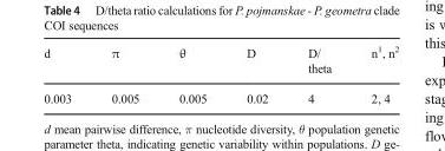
<table><thead><tr><td>d</td><td>π</td><td>θ</td><td>D</td><td>D/ theta</td><td>n<sup>1</sup>, n<sup>2</sup></td></tr></thead><tbody><tr><td>0.003</td><td>0.005</td><td>0.005</td><td>0.02</td><td>4</td><td>2, 4</td></tr></tbody></table>